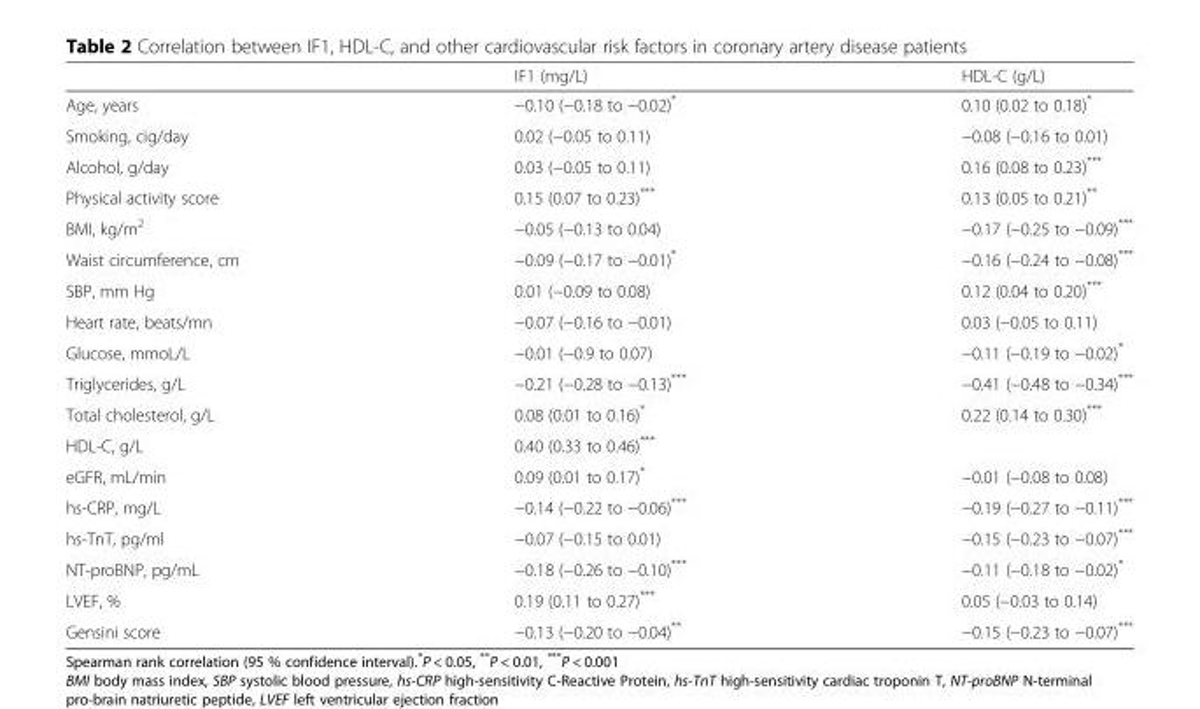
<table><thead><tr><td></td><td>IF1 (mg/L)</td><td>HDL-C (g/L)</td></tr></thead><tbody><tr><td>Age, years</td><td>−0.10 (−0.18 to −0.02)*</td><td>0.10 (0.02 to 0.18)*</td></tr><tr><td>Smoking, cig/day</td><td>0.02 (−0.05 to 0.11)</td><td>−0.08 (−0.16 to 0.01)</td></tr><tr><td>Alcohol, g/day</td><td>0.03 (−0.05 to 0.11)</td><td>0.16 (0.08 to 0.23)***</td></tr><tr><td>Physical activity score</td><td>0.15 (0.07 to 0.23)***</td><td>0.13 (0.05 to 0.21)**</td></tr><tr><td>BMI, kg/m<sup>2</sup></td><td>−0.05 (−0.13 to 0.04)</td><td>−0.17 (−0.25 to −0.09)***</td></tr><tr><td>Waist circumference, cm</td><td>−0.09 (−0.17 to −0.01)*</td><td>−0.16 (−0.24 to −0.08)***</td></tr><tr><td>SBP, mm Hg</td><td>0.01 (−0.09 to 0.08)</td><td>0.12 (0.04 to 0.20)***</td></tr><tr><td>Heart rate, beats/mn</td><td>−0.07 (−0.16 to −0.01)</td><td>0.03 (−0.05 to 0.11)</td></tr><tr><td>Glucose, mmoL/L</td><td>−0.01 (−0.9 to 0.07)</td><td>−0.11 (−0.19 to −0.02)*</td></tr><tr><td>Triglycerides, g/L</td><td>−0.21 (−0.28 to −0.13)***</td><td>−0.41 (−0.48 to −0.34)***</td></tr><tr><td>Total cholesterol, g/L</td><td>0.08 (0.01 to 0.16)*</td><td>0.22 (0.14 to 0.30)***</td></tr><tr><td>HDL-C, g/L</td><td>0.40 (0.33 to 0.46)***</td><td></td></tr><tr><td>eGFR, mL/min</td><td>0.09 (0.01 to 0.17)*</td><td>−0.01 (−0.08 to 0.08)</td></tr><tr><td>hs-CRP, mg/L</td><td>−0.14 (−0.22 to −0.06)***</td><td>−0.19 (−0.27 to −0.11)***</td></tr><tr><td>hs-TnT, pg/ml</td><td>−0.07 (−0.15 to 0.01)</td><td>−0.15 (−0.23 to −0.07)***</td></tr><tr><td>NT-proBNP, pg/mL</td><td>−0.18 (−0.26 to −0.10)***</td><td>−0.11 (−0.18 to −0.02)*</td></tr><tr><td>LVEF, %</td><td>0.19 (0.11 to 0.27)***</td><td>0.05 (−0.03 to 0.14)</td></tr><tr><td>Gensini score</td><td>−0.13 (−0.20 to −0.04)**</td><td>−0.15 (−0.23 to −0.07)***</td></tr></tbody></table>